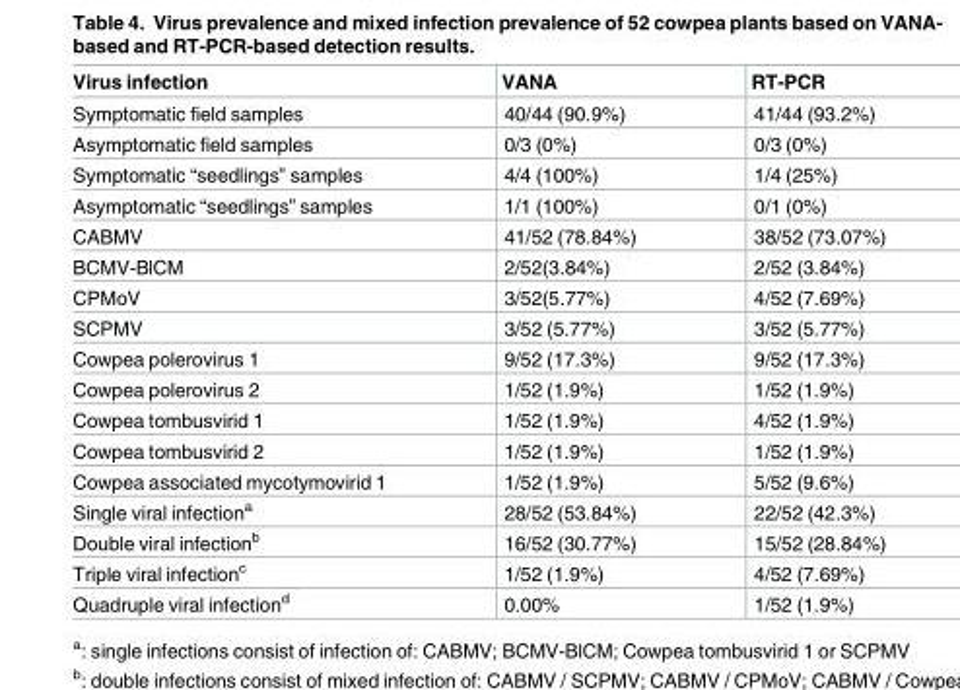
<table><thead><tr><td>Virus infection</td><td>VANA</td><td>RT-PCR</td></tr></thead><tbody><tr><td>Symptomatic field samples</td><td>40/44 (90.9%)</td><td>41/44 (93.2%)</td></tr><tr><td>Asymptomatic field samples</td><td>0/3 (0%)</td><td>0/3 (0%)</td></tr><tr><td>Symptomatic “seedlings” samples</td><td>4/4 (100%)</td><td>1/4 (25%)</td></tr><tr><td>Asymptomatic “seedlings” samples</td><td>1/1 (100%)</td><td>0/1 (0%)</td></tr><tr><td>CABMV</td><td>41/52 (78.84%)</td><td>38/52 (73.07%)</td></tr><tr><td>BCMV-BlCM</td><td>2/52(3.84%)</td><td>2/52 (3.84%)</td></tr><tr><td>CPMoV</td><td>3/52(5.77%)</td><td>4/52 (7.69%)</td></tr><tr><td>SCPMV</td><td>3/52 (5.77%)</td><td>3/52 (5.77%)</td></tr><tr><td>Cowpea polerovirus 1</td><td>9/52 (17.3%)</td><td>9/52 (17.3%)</td></tr><tr><td>Cowpea polerovirus 2</td><td>1/52 (1.9%)</td><td>1/52 (1.9%)</td></tr><tr><td>Cowpea tombusvirid 1</td><td>1/52 (1.9%)</td><td>4/52 (1.9%)</td></tr><tr><td>Cowpea tombusvirid 2</td><td>1/52 (1.9%)</td><td>1/52 (1.9%)</td></tr><tr><td>Cowpea associated mycotymovirid 1</td><td>1/52 (1.9%)</td><td>5/52 (9.6%)</td></tr><tr><td>Single viral infection<sup>a</sup></td><td>28/52 (53.84%)</td><td>22/52 (42.3%)</td></tr><tr><td>Double viral infection<sup>b</sup></td><td>16/52 (30.77%)</td><td>15/52 (28.84%)</td></tr><tr><td>Triple viral infection<sup>c</sup></td><td>1/52 (1.9%)</td><td>4/52 (7.69%)</td></tr><tr><td>Quadruple viral infection<sup>d</sup></td><td>0.00%</td><td>1/52 (1.9%)</td></tr></tbody></table>